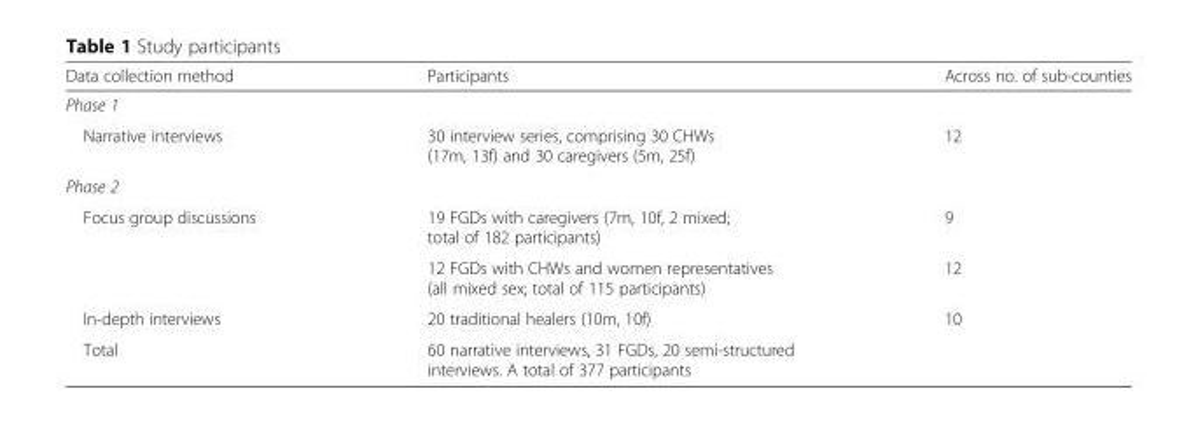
<table><thead><tr><td>Data collection method</td><td>Participants</td><td>Across no. of sub-counties</td></tr></thead><tbody><tr><td colspan="3">Phase 1</td></tr><tr><td>Narrative interviews</td><td>30 interview series, comprising 30 CHWs (17m, 13f) and 30 caregivers (5m, 25f)</td><td>12</td></tr><tr><td colspan="3">Phase 2</td></tr><tr><td rowspan="2">Focus group discussions</td><td>19 FGDs with caregivers (7m, 10f, 2 mixed; total of 182 participants)</td><td>9</td></tr><tr><td>12 FGDs with CHWs and women representatives (all mixed sex; total of 115 participants)</td><td>12</td></tr><tr><td>In-depth interviews</td><td>20 traditional healers (10m, 10f)</td><td>10</td></tr><tr><td>Total</td><td colspan="2">60 narrative interviews, 31 FGDs, 20 semi-structured interviews. A total of 377 participants</td></tr></tbody></table>